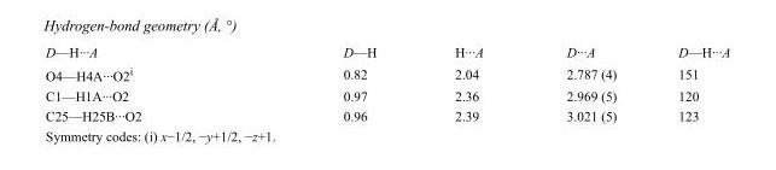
<table><tbody><tr><td>D—H···A</td><td>D—H</td><td>H···A</td><td>D···A</td><td>D—H···A</td></tr><tr><td>O4—H4A···O2<sup>i</sup></td><td>0.82</td><td>2.04</td><td>2.787 (4)</td><td>151</td></tr><tr><td>C1—H1A···O2</td><td>0.97</td><td>2.36</td><td>2.969 (5)</td><td>120</td></tr><tr><td>C25—H25B···O2</td><td>0.96</td><td>2.39</td><td>3.021 (5)</td><td>123</td></tr></tbody></table>